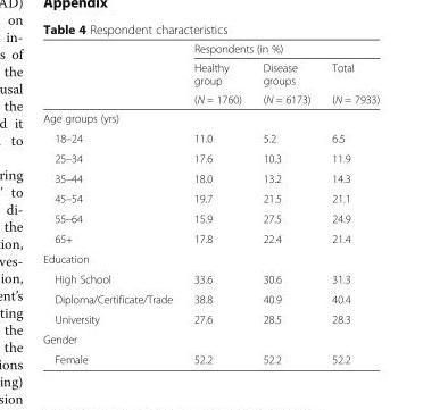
<table><thead><tr><td rowspan="3"></td><td colspan="3">Respondents (in %)</td></tr><tr><td rowspan="2">Healthy group (N = 1760)</td><td rowspan="2">Disease groups (N = 6173)</td><td rowspan="2">Total (N = 7933)</td></tr><tr></tr></thead><tbody><tr><td colspan="4">Age groups (yrs)</td></tr><tr><td>18–24</td><td>11.0</td><td>5.2</td><td>6.5</td></tr><tr><td>25–34</td><td>17.6</td><td>10.3</td><td>11.9</td></tr><tr><td>35–44</td><td>18.0</td><td>13.2</td><td>14.3</td></tr><tr><td>45–54</td><td>19.7</td><td>21.5</td><td>21.1</td></tr><tr><td>55–64</td><td>15.9</td><td>27.5</td><td>24.9</td></tr><tr><td>65+</td><td>17.8</td><td>22.4</td><td>21.4</td></tr><tr><td colspan="4">Education</td></tr><tr><td>High School</td><td>33.6</td><td>30.6</td><td>31.3</td></tr><tr><td>Diploma/Certificate/Trade</td><td>38.8</td><td>40.9</td><td>40.4</td></tr><tr><td>University</td><td>27.6</td><td>28.5</td><td>28.3</td></tr><tr><td colspan="4">Gender</td></tr><tr><td>Female</td><td>52.2</td><td>52.2</td><td>52.2</td></tr></tbody></table>